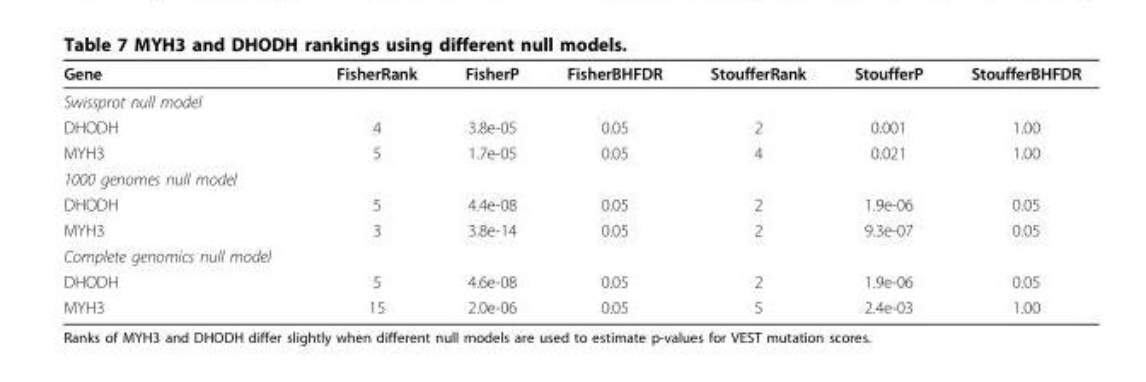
<table><thead><tr><td>Gene</td><td>FisherRank</td><td>FisherP</td><td>FisherBHFDR</td><td>StoufferRank</td><td>StoufferP</td><td>StoufferBHFDR</td></tr></thead><tbody><tr><td colspan="7">Swissprot null model</td></tr><tr><td>DHODH</td><td>4</td><td>3.8e-05</td><td>0.05</td><td>2</td><td>0.001</td><td>1.00</td></tr><tr><td>MYH3</td><td>5</td><td>1.7e-05</td><td>0.05</td><td>4</td><td>0.021</td><td>1.00</td></tr><tr><td colspan="7">1000 genomes null model</td></tr><tr><td>DHODH</td><td>5</td><td>4.4e-08</td><td>0.05</td><td>2</td><td>1.9e-06</td><td>0.05</td></tr><tr><td>MYH3</td><td>3</td><td>3.8e-14</td><td>0.05</td><td>2</td><td>9.3e-07</td><td>0.05</td></tr><tr><td colspan="7">Complete genomics null model</td></tr><tr><td>DHODH</td><td>5</td><td>4.6e-08</td><td>0.05</td><td>2</td><td>1.9e-06</td><td>0.05</td></tr><tr><td>MYH3</td><td>15</td><td>2.0e-06</td><td>0.05</td><td>5</td><td>2.4e-03</td><td>1.00</td></tr></tbody></table>